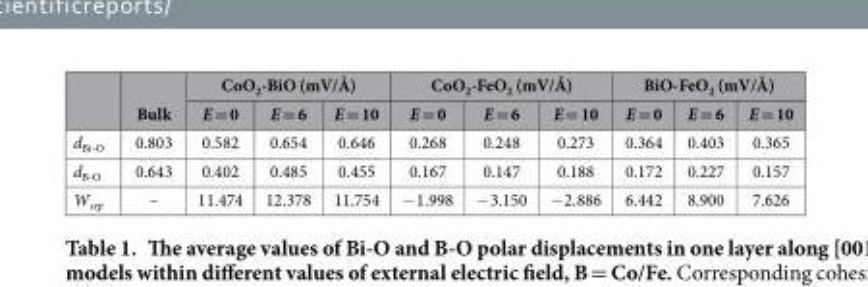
<table><thead><tr><td rowspan="2"></td><td rowspan="2">Bulk</td><td colspan="3">CoO<sub>2</sub>-BiO (mV/Å)</td><td colspan="3">CoO<sub>2</sub>-FeO<sub>2</sub> (mV/Å)</td><td colspan="3">BiO-FeO<sub>2</sub> (mV/Å)</td></tr><tr><td>E = 0</td><td>E = 6</td><td>E = 10</td><td>E = 0</td><td>E = 6</td><td>E = 10</td><td>E = 0</td><td>E = 6</td><td>E = 10</td></tr></thead><tbody><tr><td>d<sub>Bi-O</sub></td><td>0.803</td><td>0.582</td><td>0.654</td><td>0.646</td><td>0.268</td><td>0.248</td><td>0.273</td><td>0.364</td><td>0.403</td><td>0.365</td></tr><tr><td>d<sub>B-O</sub></td><td>0.643</td><td>0.402</td><td>0.485</td><td>0.455</td><td>0.167</td><td>0.147</td><td>0.188</td><td>0.172</td><td>0.227</td><td>0.157</td></tr><tr><td>W<sub>sep</sub></td><td>–</td><td>11.474</td><td>12.378</td><td>11.754</td><td>− 1.998</td><td>− 3.150</td><td>− 2.886</td><td>6.442</td><td>8.900</td><td>7.626</td></tr></tbody></table>